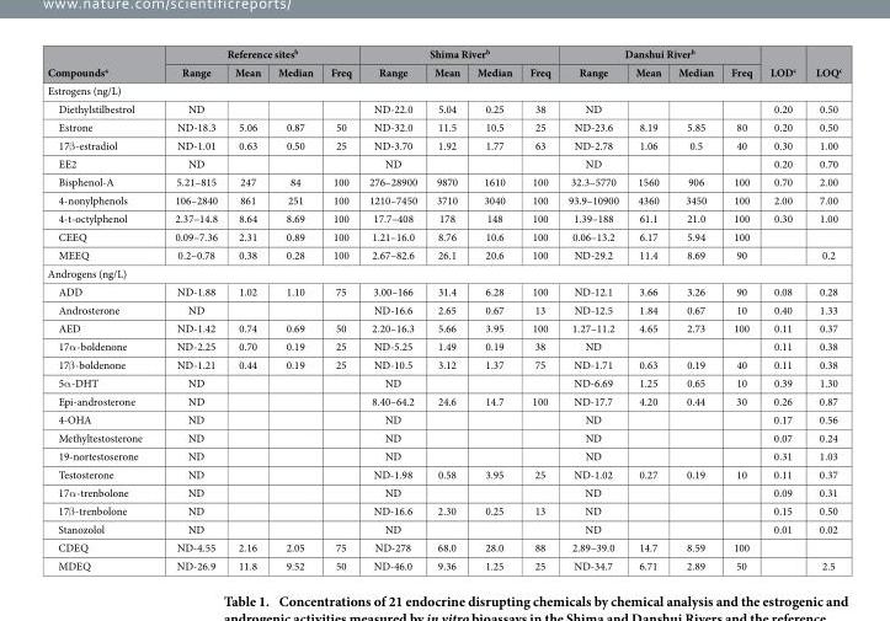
<table><thead><tr><td rowspan="2">Compounds<sup>a</sup></td><td colspan="4">Reference sites<sup>b</sup></td><td colspan="4">Shima River<sup>b</sup></td><td colspan="4">Danshui River<sup>b</sup></td><td rowspan="2">LOD<sup>c</sup></td><td rowspan="2">LOQ<sup>c</sup></td></tr><tr><td>Range</td><td>Mean</td><td>Median</td><td>Freq</td><td>Range</td><td>Mean</td><td>Median</td><td>Freq</td><td>Range</td><td>Mean</td><td>Median</td><td>Freq</td></tr></thead><tbody><tr><td colspan="15">Estrogens (ng/L)</td></tr><tr><td>Diethylstilbestrol</td><td>ND</td><td></td><td></td><td></td><td>ND-22.0</td><td>5.04</td><td>0.25</td><td>38</td><td>ND</td><td></td><td></td><td></td><td>0.20</td><td>0.50</td></tr><tr><td>Estrone</td><td>ND-18.3</td><td>5.06</td><td>0.87</td><td>50</td><td>ND-32.0</td><td>11.5</td><td>10.5</td><td>25</td><td>ND-23.6</td><td>8.19</td><td>5.85</td><td>80</td><td>0.20</td><td>0.50</td></tr><tr><td>17β -estradiol</td><td>ND-1.01</td><td>0.63</td><td>0.50</td><td>25</td><td>ND-3.70</td><td>1.92</td><td>1.77</td><td>63</td><td>ND-2.78</td><td>1.06</td><td>0.5</td><td>40</td><td>0.30</td><td>1.00</td></tr><tr><td>EE2</td><td>ND</td><td></td><td></td><td></td><td>ND</td><td></td><td></td><td></td><td>ND</td><td></td><td></td><td></td><td>0.20</td><td>0.70</td></tr><tr><td>Bisphenol-A</td><td>5.21–815</td><td>247</td><td>84</td><td>100</td><td>276–28900</td><td>9870</td><td>1610</td><td>100</td><td>32.3–5770</td><td>1560</td><td>906</td><td>100</td><td>0.70</td><td>2.00</td></tr><tr><td>4-nonylphenols</td><td>106–2840</td><td>861</td><td>251</td><td>100</td><td>1210–7450</td><td>3710</td><td>3040</td><td>100</td><td>93.9–10900</td><td>4360</td><td>3450</td><td>100</td><td>2.00</td><td>7.00</td></tr><tr><td>4-t-octylphenol</td><td>2.37–14.8</td><td>8.64</td><td>8.69</td><td>100</td><td>17.7–408</td><td>178</td><td>148</td><td>100</td><td>1.39–188</td><td>61.1</td><td>21.0</td><td>100</td><td>0.30</td><td>1.00</td></tr><tr><td>CEEQ</td><td>0.09–7.36</td><td>2.31</td><td>0.89</td><td>100</td><td>1.21–16.0</td><td>8.76</td><td>10.6</td><td>100</td><td>0.06–13.2</td><td>6.17</td><td>5.94</td><td>100</td><td></td><td></td></tr><tr><td>MEEQ</td><td>0.2–0.78</td><td>0.38</td><td>0.28</td><td>100</td><td>2.67–82.6</td><td>26.1</td><td>20.6</td><td>100</td><td>ND-29.2</td><td>11.4</td><td>8.69</td><td>90</td><td></td><td>0.2</td></tr><tr><td colspan="15">Androgens (ng/L)</td></tr><tr><td>ADD</td><td>ND-1.88</td><td>1.02</td><td>1.10</td><td>75</td><td>3.00–166</td><td>31.4</td><td>6.28</td><td>100</td><td>ND-12.1</td><td>3.66</td><td>3.26</td><td>90</td><td>0.08</td><td>0.28</td></tr><tr><td>Androsterone</td><td>ND</td><td></td><td></td><td></td><td>ND-16.6</td><td>2.65</td><td>0.67</td><td>13</td><td>ND-12.5</td><td>1.84</td><td>0.67</td><td>10</td><td>0.40</td><td>1.33</td></tr><tr><td>AED</td><td>ND-1.42</td><td>0.74</td><td>0.69</td><td>50</td><td>2.20–16.3</td><td>5.66</td><td>3.95</td><td>100</td><td>1.27–11.2</td><td>4.65</td><td>2.73</td><td>100</td><td>0.11</td><td>0.37</td></tr><tr><td>17α -boldenone</td><td>ND-2.25</td><td>0.70</td><td>0.19</td><td>25</td><td>ND-5.25</td><td>1.49</td><td>0.19</td><td>38</td><td>ND</td><td></td><td></td><td></td><td>0.11</td><td>0.38</td></tr><tr><td>17β -boldenone</td><td>ND-1.21</td><td>0.44</td><td>0.19</td><td>25</td><td>ND-10.5</td><td>3.12</td><td>1.37</td><td>75</td><td>ND-1.71</td><td>0.63</td><td>0.19</td><td>40</td><td>0.11</td><td>0.38</td></tr><tr><td>5α -DHT</td><td>ND</td><td></td><td></td><td></td><td>ND</td><td></td><td></td><td></td><td>ND-6.69</td><td>1.25</td><td>0.65</td><td>10</td><td>0.39</td><td>1.30</td></tr><tr><td>Epi-androsterone</td><td>ND</td><td></td><td></td><td></td><td>8.40–64.2</td><td>24.6</td><td>14.7</td><td>100</td><td>ND-17.7</td><td>4.20</td><td>0.44</td><td>30</td><td>0.26</td><td>0.87</td></tr><tr><td>4-OHA</td><td>ND</td><td></td><td></td><td></td><td>ND</td><td></td><td></td><td></td><td>ND</td><td></td><td></td><td></td><td>0.17</td><td>0.56</td></tr><tr><td>Methyltestosterone</td><td>ND</td><td></td><td></td><td></td><td>ND</td><td></td><td></td><td></td><td>ND</td><td></td><td></td><td></td><td>0.07</td><td>0.24</td></tr><tr><td>19-nortestoserone</td><td>ND</td><td></td><td></td><td></td><td>ND</td><td></td><td></td><td></td><td>ND</td><td></td><td></td><td></td><td>0.31</td><td>1.03</td></tr><tr><td>Testosterone</td><td>ND</td><td></td><td></td><td></td><td>ND-1.98</td><td>0.58</td><td>3.95</td><td>25</td><td>ND-1.02</td><td>0.27</td><td>0.19</td><td>10</td><td>0.11</td><td>0.37</td></tr><tr><td>17α -trenbolone</td><td>ND</td><td></td><td></td><td></td><td>ND</td><td></td><td></td><td></td><td>ND</td><td></td><td></td><td></td><td>0.09</td><td>0.31</td></tr><tr><td>17β -trenbolone</td><td>ND</td><td></td><td></td><td></td><td>ND-16.6</td><td>2.30</td><td>0.25</td><td>13</td><td>ND</td><td></td><td></td><td></td><td>0.15</td><td>0.50</td></tr><tr><td>Stanozolol</td><td>ND</td><td></td><td></td><td></td><td>ND</td><td></td><td></td><td></td><td>ND</td><td></td><td></td><td></td><td>0.01</td><td>0.02</td></tr><tr><td>CDEQ</td><td>ND-4.55</td><td>2.16</td><td>2.05</td><td>75</td><td>ND-278</td><td>68.0</td><td>28.0</td><td>88</td><td>2.89–39.0</td><td>14.7</td><td>8.59</td><td>100</td><td></td><td></td></tr><tr><td>MDEQ</td><td>ND-26.9</td><td>11.8</td><td>9.52</td><td>50</td><td>ND-46.0</td><td>9.36</td><td>1.25</td><td>25</td><td>ND-34.7</td><td>6.71</td><td>2.89</td><td>50</td><td></td><td>2.5</td></tr></tbody></table>